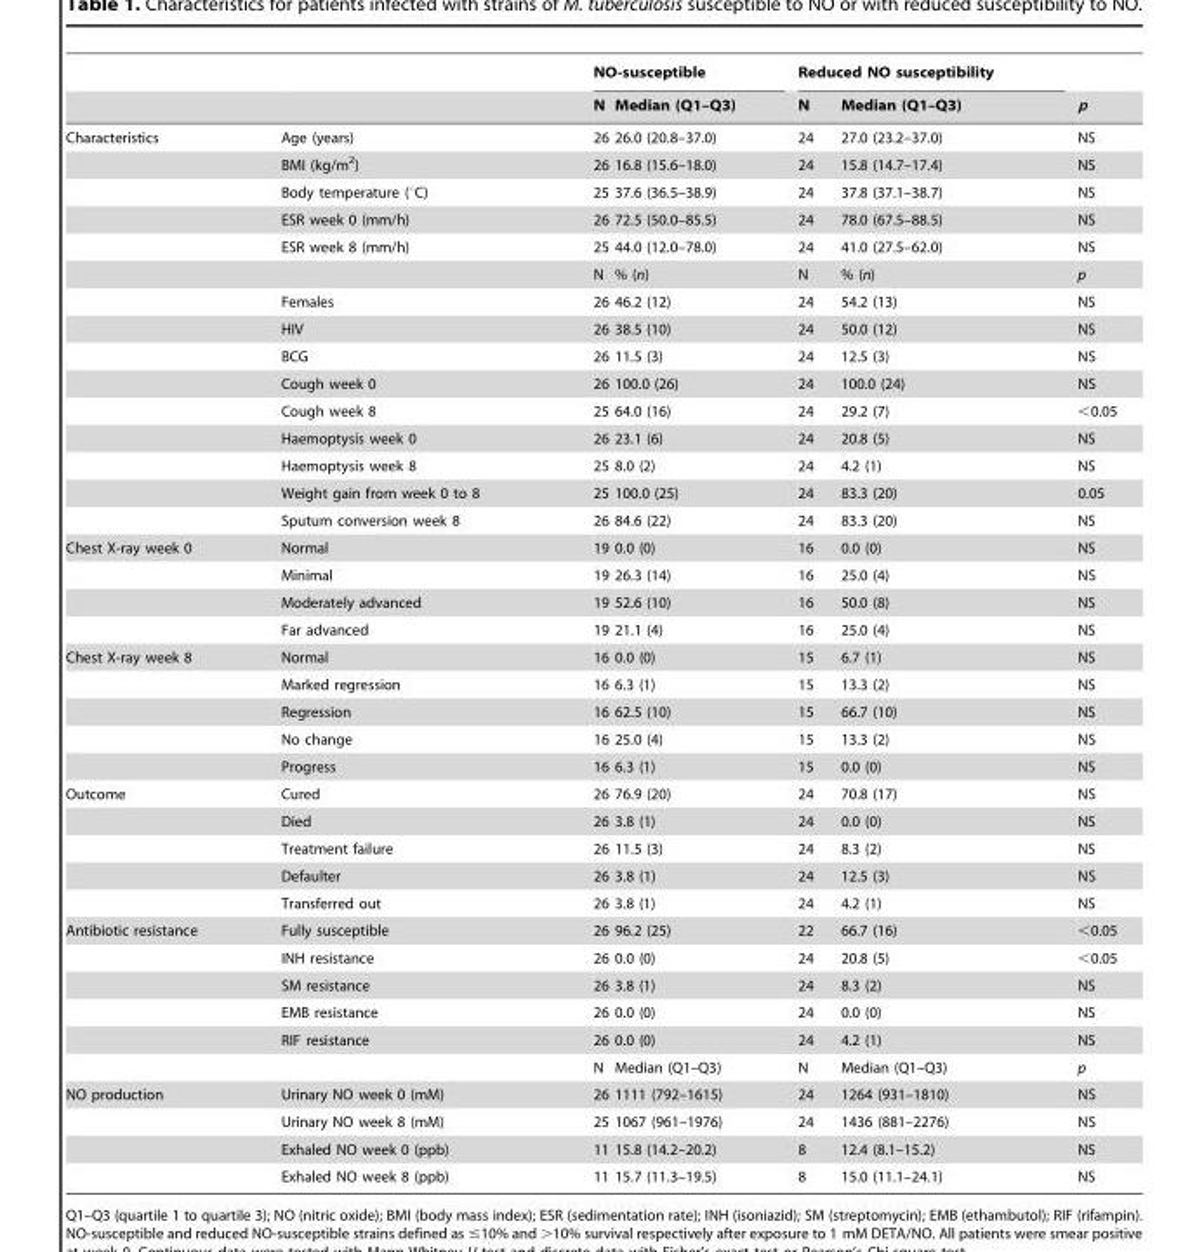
<table><thead><tr><td rowspan="2"></td><td rowspan="2"></td><td colspan="2">NO-susceptible</td><td colspan="2">Reduced NO susceptibility</td><td rowspan="2">p</td></tr><tr><td>N</td><td>Median (Q1–Q3)</td><td>N</td><td>Median (Q1–Q3)</td></tr></thead><tbody><tr><td rowspan="15">Characteristics</td><td>Age (years)</td><td>26</td><td>26.0 (20.8–37.0)</td><td>24</td><td>27.0 (23.2–37.0)</td><td>NS</td></tr><tr><td>BMI (kg/m<sup>2</sup>)</td><td>26</td><td>16.8 (15.6–18.0)</td><td>24</td><td>15.8 (14.7–17.4)</td><td>NS</td></tr><tr><td>Body temperature (°C)</td><td>25</td><td>37.6 (36.5–38.9)</td><td>24</td><td>37.8 (37.1–38.7)</td><td>NS</td></tr><tr><td>ESR week 0 (mm/h)</td><td>26</td><td>72.5 (50.0–85.5)</td><td>24</td><td>78.0 (67.5–88.5)</td><td>NS</td></tr><tr><td>ESR week 8 (mm/h)</td><td>25</td><td>44.0 (12.0–78.0)</td><td>24</td><td>41.0 (27.5–62.0)</td><td>NS</td></tr><tr><td></td><td>N</td><td>% (n)</td><td>N</td><td>% (n)</td><td>p</td></tr><tr><td>Females</td><td>26</td><td>46.2 (12)</td><td>24</td><td>54.2 (13)</td><td>NS</td></tr><tr><td>HIV</td><td>26</td><td>38.5 (10)</td><td>24</td><td>50.0 (12)</td><td>NS</td></tr><tr><td>BCG</td><td>26</td><td>11.5 (3)</td><td>24</td><td>12.5 (3)</td><td>NS</td></tr><tr><td>Cough week 0</td><td>26</td><td>100.0 (26)</td><td>24</td><td>100.0 (24)</td><td>NS</td></tr><tr><td>Cough week 8</td><td>25</td><td>64.0 (16)</td><td>24</td><td>29.2 (7)</td><td>&lt;0.05</td></tr><tr><td>Haemoptysis week 0</td><td>26</td><td>23.1 (6)</td><td>24</td><td>20.8 (5)</td><td>NS</td></tr><tr><td>Haemoptysis week 8</td><td>25</td><td>8.0 (2)</td><td>24</td><td>4.2 (1)</td><td>NS</td></tr><tr><td>Weight gain from week 0 to 8</td><td>25</td><td>100.0 (25)</td><td>24</td><td>83.3 (20)</td><td>0.05</td></tr><tr><td>Sputum conversion week 8</td><td>26</td><td>84.6 (22)</td><td>24</td><td>83.3 (20)</td><td>NS</td></tr><tr><td rowspan="4">Chest X-ray week 0</td><td>Normal</td><td>19</td><td>0.0 (0)</td><td>16</td><td>0.0 (0)</td><td>NS</td></tr><tr><td>Minimal</td><td>19</td><td>26.3 (14)</td><td>16</td><td>25.0 (4)</td><td>NS</td></tr><tr><td>Moderately advanced</td><td>19</td><td>52.6 (10)</td><td>16</td><td>50.0 (8)</td><td>NS</td></tr><tr><td>Far advanced</td><td>19</td><td>21.1 (4)</td><td>16</td><td>25.0 (4)</td><td>NS</td></tr><tr><td rowspan="5">Chest X-ray week 8</td><td>Normal</td><td>16</td><td>0.0 (0)</td><td>15</td><td>6.7 (1)</td><td>NS</td></tr><tr><td>Marked regression</td><td>16</td><td>6.3 (1)</td><td>15</td><td>13.3 (2)</td><td>NS</td></tr><tr><td>Regression</td><td>16</td><td>62.5 (10)</td><td>15</td><td>66.7 (10)</td><td>NS</td></tr><tr><td>No change</td><td>16</td><td>25.0 (4)</td><td>15</td><td>13.3 (2)</td><td>NS</td></tr><tr><td>Progress</td><td>16</td><td>6.3 (1)</td><td>15</td><td>0.0 (0)</td><td>NS</td></tr><tr><td rowspan="5">Outcome</td><td>Cured</td><td>26</td><td>76.9 (20)</td><td>24</td><td>70.8 (17)</td><td>NS</td></tr><tr><td>Died</td><td>26</td><td>3.8 (1)</td><td>24</td><td>0.0 (0)</td><td>NS</td></tr><tr><td>Treatment failure</td><td>26</td><td>11.5 (3)</td><td>24</td><td>8.3 (2)</td><td>NS</td></tr><tr><td>Defaulter</td><td>26</td><td>3.8 (1)</td><td>24</td><td>12.5 (3)</td><td>NS</td></tr><tr><td>Transferred out</td><td>26</td><td>3.8 (1)</td><td>24</td><td>4.2 (1)</td><td>NS</td></tr><tr><td rowspan="6">Antibiotic resistance</td><td>Fully susceptible</td><td>26</td><td>96.2 (25)</td><td>22</td><td>66.7 (16)</td><td>&lt;0.05</td></tr><tr><td>INH resistance</td><td>26</td><td>0.0 (0)</td><td>24</td><td>20.8 (5)</td><td>&lt;0.05</td></tr><tr><td>SM resistance</td><td>26</td><td>3.8 (1)</td><td>24</td><td>8.3 (2)</td><td>NS</td></tr><tr><td>EMB resistance</td><td>26</td><td>0.0 (0)</td><td>24</td><td>0.0 (0)</td><td>NS</td></tr><tr><td>RIF resistance</td><td>26</td><td>0.0 (0)</td><td>24</td><td>4.2 (1)</td><td>NS</td></tr><tr><td></td><td>N</td><td>Median (Q1–Q3)</td><td>N</td><td>Median (Q1–Q3)</td><td>p</td></tr><tr><td rowspan="4">NO production</td><td>Urinary NO week 0 (mM)</td><td>26</td><td>1111 (792–1615)</td><td>24</td><td>1264 (931–1810)</td><td>NS</td></tr><tr><td>Urinary NO week 8 (mM)</td><td>25</td><td>1067 (961–1976)</td><td>24</td><td>1436 (881–2276)</td><td>NS</td></tr><tr><td>Exhaled NO week 0 (ppb)</td><td>11</td><td>15.8 (14.2–20.2)</td><td>8</td><td>12.4 (8.1–15.2)</td><td>NS</td></tr><tr><td>Exhaled NO week 8 (ppb)</td><td>11</td><td>15.7 (11.3–19.5)</td><td>8</td><td>15.0 (11.1–24.1)</td><td>NS</td></tr></tbody></table>